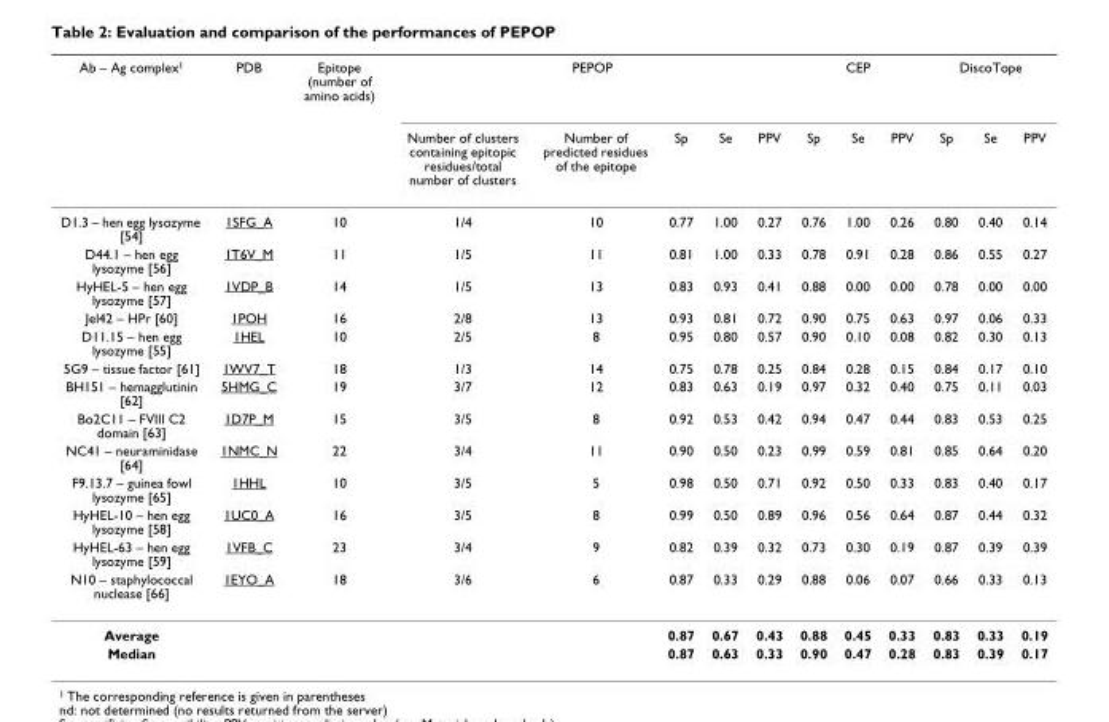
<table><thead><tr><td rowspan="2">Ab – Ag complex<sup>1</sup></td><td rowspan="2">PDB</td><td rowspan="2">Epitope (number of amino acids)</td><td colspan="5">PEPOP</td><td colspan="3">CEP</td><td colspan="3">DiscoTope</td></tr><tr><td>Number of clusters containing epitopic residues/total number of clusters</td><td>Number of predicted residues of the epitope</td><td>Sp</td><td>Se</td><td>PPV</td><td>Sp</td><td>Se</td><td>PPV</td><td>Sp</td><td>Se</td><td>PPV</td></tr></thead><tbody><tr><td>D1.3 – hen egg lysozyme [54]</td><td>1SFG_A</td><td>10</td><td>1/4</td><td>10</td><td>0.77</td><td>1.00</td><td>0.27</td><td>0.76</td><td>1.00</td><td>0.26</td><td>0.80</td><td>0.40</td><td>0.14</td></tr><tr><td>D44.1 – hen egg lysozyme [56]</td><td>1T6V_M</td><td>11</td><td>1/5</td><td>11</td><td>0.81</td><td>1.00</td><td>0.33</td><td>0.78</td><td>0.91</td><td>0.28</td><td>0.86</td><td>0.55</td><td>0.27</td></tr><tr><td>HyHEL-5 – hen egg lysozyme [57]</td><td>1VDP_B</td><td>14</td><td>1/5</td><td>13</td><td>0.83</td><td>0.93</td><td>0.41</td><td>0.88</td><td>0.00</td><td>0.00</td><td>0.78</td><td>0.00</td><td>0.00</td></tr><tr><td>Jel42 – HPr [60]</td><td>1POH</td><td>16</td><td>2/8</td><td>13</td><td>0.93</td><td>0.81</td><td>0.72</td><td>0.90</td><td>0.75</td><td>0.63</td><td>0.97</td><td>0.06</td><td>0.33</td></tr><tr><td>D11.15 – hen egg lysozyme [55]</td><td>1HEL</td><td>10</td><td>2/5</td><td>8</td><td>0.95</td><td>0.80</td><td>0.57</td><td>0.90</td><td>0.10</td><td>0.08</td><td>0.82</td><td>0.30</td><td>0.13</td></tr><tr><td>5G9 – tissue factor [61]</td><td>1WV7_T</td><td>18</td><td>1/3</td><td>14</td><td>0.75</td><td>0.78</td><td>0.25</td><td>0.84</td><td>0.28</td><td>0.15</td><td>0.84</td><td>0.17</td><td>0.10</td></tr><tr><td>BH151 – hemagglutinin [62]</td><td>5HMG_C</td><td>19</td><td>3/7</td><td>12</td><td>0.83</td><td>0.63</td><td>0.19</td><td>0.97</td><td>0.32</td><td>0.40</td><td>0.75</td><td>0.11</td><td>0.03</td></tr><tr><td>Bo2C11 – FVIII C2 domain [63]</td><td>1D7P_M</td><td>15</td><td>3/5</td><td>8</td><td>0.92</td><td>0.53</td><td>0.42</td><td>0.94</td><td>0.47</td><td>0.44</td><td>0.83</td><td>0.53</td><td>0.25</td></tr><tr><td>NC41 – neuraminidase [64]</td><td>1NMC_N</td><td>22</td><td>3/4</td><td>11</td><td>0.90</td><td>0.50</td><td>0.23</td><td>0.99</td><td>0.59</td><td>0.81</td><td>0.85</td><td>0.64</td><td>0.20</td></tr><tr><td>F9.13.7 – guinea fowl lysozyme [65]</td><td>1HHL</td><td>10</td><td>3/5</td><td>5</td><td>0.98</td><td>0.50</td><td>0.71</td><td>0.92</td><td>0.50</td><td>0.33</td><td>0.83</td><td>0.40</td><td>0.17</td></tr><tr><td>HyHEL-10 – hen egg lysozyme [58]</td><td>1UC0_A</td><td>16</td><td>3/5</td><td>8</td><td>0.99</td><td>0.50</td><td>0.89</td><td>0.96</td><td>0.56</td><td>0.64</td><td>0.87</td><td>0.44</td><td>0.32</td></tr><tr><td>HyHEL-63 – hen egg lysozyme [59]</td><td>1VFB_C</td><td>23</td><td>3/4</td><td>9</td><td>0.82</td><td>0.39</td><td>0.32</td><td>0.73</td><td>0.30</td><td>0.19</td><td>0.87</td><td>0.39</td><td>0.39</td></tr><tr><td>N10 – staphylococcal nuclease [66]</td><td>1EYO_A</td><td>18</td><td>3/6</td><td>6</td><td>0.87</td><td>0.33</td><td>0.29</td><td>0.88</td><td>0.06</td><td>0.07</td><td>0.66</td><td>0.33</td><td>0.13</td></tr><tr><td>Average</td><td></td><td></td><td></td><td></td><td>0.87</td><td>0.67</td><td>0.43</td><td>0.88</td><td>0.45</td><td>0.33</td><td>0.83</td><td>0.33</td><td>0.19</td></tr><tr><td>Median</td><td></td><td></td><td></td><td></td><td>0.87</td><td>0.63</td><td>0.33</td><td>0.90</td><td>0.47</td><td>0.28</td><td>0.83</td><td>0.39</td><td>0.17</td></tr></tbody></table>